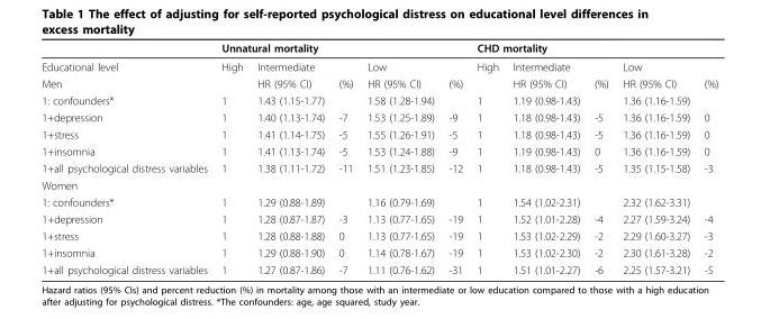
<table><thead><tr><td rowspan="3">Educational level Men</td><td colspan="3">Unnatural mortality</td><td rowspan="3">Low HR (95% CI)</td><td rowspan="3">(%)</td><td colspan="3">CHD mortality</td><td rowspan="3">Low HR (95% CI)</td><td rowspan="3">(%)</td></tr><tr><td rowspan="2">High</td><td colspan="2">Intermediate</td><td rowspan="2">High</td><td colspan="2">Intermediate</td></tr><tr><td>HR (95% CI)</td><td>(%)</td><td>HR (95% CI)</td><td>(%)</td></tr></thead><tbody><tr><td>1: confounders*</td><td>1</td><td>1.43 (1.15-1.77)</td><td></td><td>1.58 (1.28-1.94)</td><td></td><td>1</td><td>1.19 (0.98-1.43)</td><td></td><td>1.36 (1.16-1.59)</td><td></td></tr><tr><td>1+depression</td><td>1</td><td>1.40 (1.13-1.74)</td><td>-7</td><td>1.53 (1.25-1.89)</td><td>-9</td><td>1</td><td>1.18 (0.98-1.43)</td><td>-5</td><td>1.36 (1.16-1.59)</td><td>0</td></tr><tr><td>1+stress</td><td>1</td><td>1.41 (1.14-1.75)</td><td>-5</td><td>1.55 (1.26-1.91)</td><td>-5</td><td>1</td><td>1.18 (0.98-1.43)</td><td>-5</td><td>1.36 (1.16-1.59)</td><td>0</td></tr><tr><td>1+insomnia</td><td>1</td><td>1.41 (1.13-1.74)</td><td>-5</td><td>1.53 (1.24-1.88)</td><td>-9</td><td>1</td><td>1.19 (0.98-1.43)</td><td>0</td><td>1.36 (1.16-1.59)</td><td>0</td></tr><tr><td>1+all psychological distress variables</td><td>1</td><td>1.38 (1.11-1.72)</td><td>-11</td><td>1.51 (1.23-1.85)</td><td>-12</td><td>1</td><td>1.18 (0.98-1.43)</td><td>-5</td><td>1.35 (1.15-1.58)</td><td>-3</td></tr><tr><td colspan="11">Women</td></tr><tr><td>1: confounders*</td><td>1</td><td>1.29 (0.88-1.89)</td><td></td><td>1.16 (0.79-1.69)</td><td></td><td>1</td><td>1.54 (1.02-2.31)</td><td></td><td>2.32 (1.62-3.31)</td><td></td></tr><tr><td>1+depression</td><td>1</td><td>1.28 (0.87-1.87)</td><td>-3</td><td>1.13 (0.77-1.65)</td><td>-19</td><td>1</td><td>1.52 (1.01-2.28)</td><td>-4</td><td>2.27 (1.59-3.24)</td><td>-4</td></tr><tr><td>1+stress</td><td>1</td><td>1.28 (0.88-1.88)</td><td>0</td><td>1.13 (0.77-1.65)</td><td>-19</td><td>1</td><td>1.53 (1.02-2.29)</td><td>-2</td><td>2.29 (1.60-3.27)</td><td>-3</td></tr><tr><td>1+insomnia</td><td>1</td><td>1.29 (0.88-1.90)</td><td>0</td><td>1.14 (0.78-1.67)</td><td>-19</td><td>1</td><td>1.53 (1.02-2.30)</td><td>-2</td><td>2.30 (1.61-3.28)</td><td>-2</td></tr><tr><td>1+all psychological distress variables</td><td>1</td><td>1.27 (0.87-1.86)</td><td>-7</td><td>1.11 (0.76-1.62)</td><td>-31</td><td>1</td><td>1.51 (1.01-2.27)</td><td>-6</td><td>2.25 (1.57-3.21)</td><td>-5</td></tr></tbody></table>